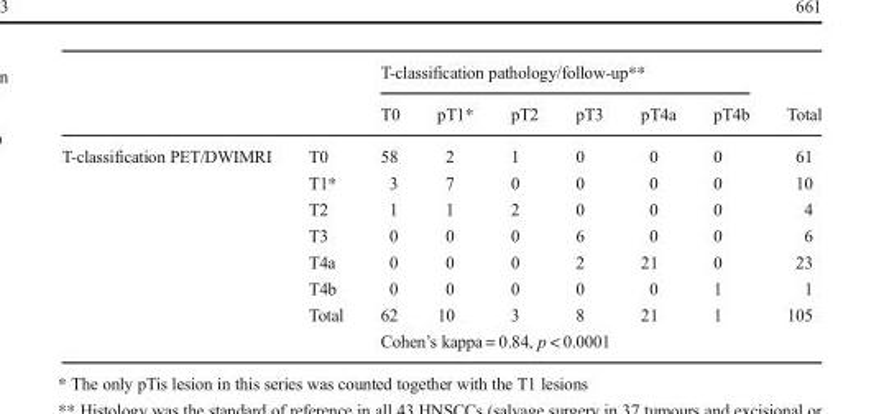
<table><thead><tr><td rowspan="2"></td><td rowspan="2"></td><td colspan="6">T-classification pathology/follow-up**</td><td rowspan="2">Total</td></tr><tr><td>T0</td><td>pT1*</td><td>pT2</td><td>pT3</td><td>pT4a</td><td>pT4b</td></tr></thead><tbody><tr><td rowspan="8">T-classification PET/DWIMRI</td><td>T0</td><td>58</td><td>2</td><td>1</td><td>0</td><td>0</td><td>0</td><td>61</td></tr><tr><td>T1*</td><td>3</td><td>7</td><td>0</td><td>0</td><td>0</td><td>0</td><td>10</td></tr><tr><td>T2</td><td>1</td><td>1</td><td>2</td><td>0</td><td>0</td><td>0</td><td>4</td></tr><tr><td>T3</td><td>0</td><td>0</td><td>0</td><td>6</td><td>0</td><td>0</td><td>6</td></tr><tr><td>T4a</td><td>0</td><td>0</td><td>0</td><td>2</td><td>21</td><td>0</td><td>23</td></tr><tr><td>T4b</td><td>0</td><td>0</td><td>0</td><td>0</td><td>0</td><td>1</td><td>1</td></tr><tr><td>Total</td><td>62</td><td>10</td><td>3</td><td>8</td><td>21</td><td>1</td><td>105</td></tr><tr><td></td><td colspan="6">Cohen’s kappa = 0.84, p &lt; 0.0001</td><td></td></tr></tbody></table>